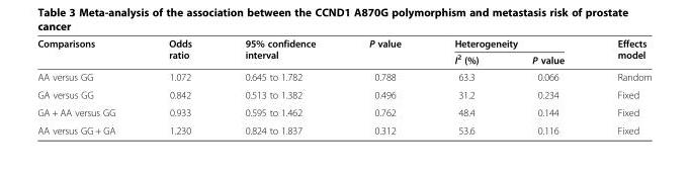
<table><thead><tr><td rowspan="2">Comparisons</td><td rowspan="2">Odds ratio</td><td rowspan="2">95% confidence interval</td><td rowspan="2">P value</td><td colspan="2">Heterogeneity</td><td rowspan="2">Effects model</td></tr><tr><td>I<sup>2</sup> (%)</td><td>P value</td></tr></thead><tbody><tr><td>AA versus GG</td><td>1.072</td><td>0.645 to 1.782</td><td>0.788</td><td>63.3</td><td>0.066</td><td>Random</td></tr><tr><td>GA versus GG</td><td>0.842</td><td>0.513 to 1.382</td><td>0.496</td><td>31.2</td><td>0.234</td><td>Fixed</td></tr><tr><td>GA + AA versus GG</td><td>0.933</td><td>0.595 to 1.462</td><td>0.762</td><td>48.4</td><td>0.144</td><td>Fixed</td></tr><tr><td>AA versus GG + GA</td><td>1.230</td><td>0.824 to 1.837</td><td>0.312</td><td>53.6</td><td>0.116</td><td>Fixed</td></tr></tbody></table>